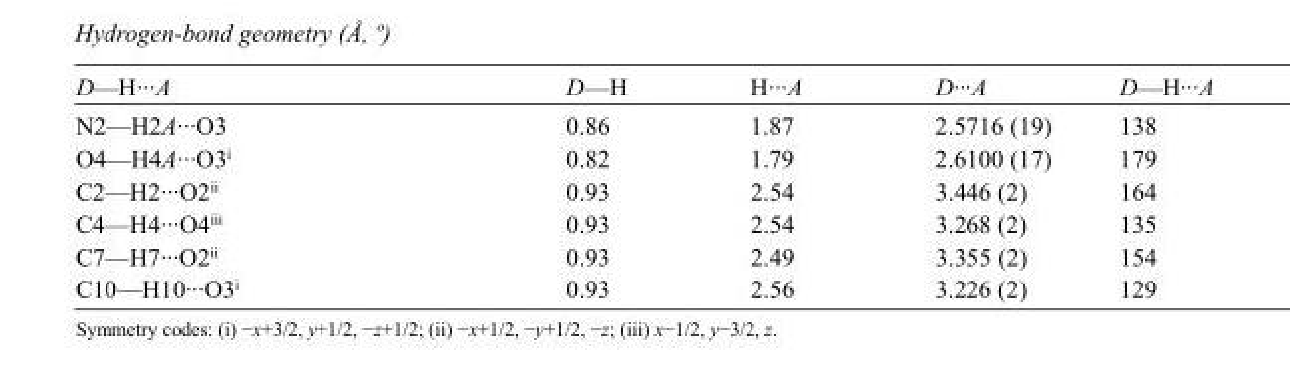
<table><tbody><tr><td>D—H···A</td><td>D—H</td><td>H···A</td><td>D···A</td><td>D—H···A</td></tr><tr><td>N2—H2A···O3</td><td>0.86</td><td>1.87</td><td>2.5716 (19)</td><td>138</td></tr><tr><td>O4—H4A···O3<sup>i</sup></td><td>0.82</td><td>1.79</td><td>2.6100 (17)</td><td>179</td></tr><tr><td>C2—H2···O2<sup>ii</sup></td><td>0.93</td><td>2.54</td><td>3.446 (2)</td><td>164</td></tr><tr><td>C4—H4···O4<sup>iii</sup></td><td>0.93</td><td>2.54</td><td>3.268 (2)</td><td>135</td></tr><tr><td>C7—H7···O2<sup>ii</sup></td><td>0.93</td><td>2.49</td><td>3.355 (2)</td><td>154</td></tr><tr><td>C10—H10···O3<sup>i</sup></td><td>0.93</td><td>2.56</td><td>3.226 (2)</td><td>129</td></tr></tbody></table>